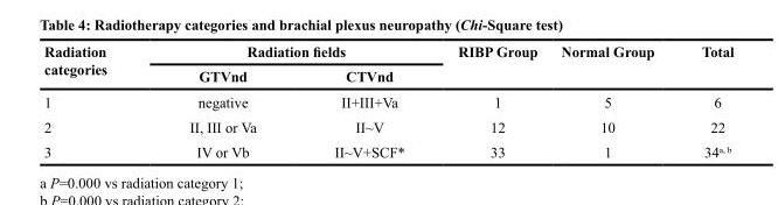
<table><thead><tr><td rowspan="2">Radiation categories</td><td colspan="2">Radiation fields</td><td rowspan="2">RIBP Group</td><td rowspan="2">Normal Group</td><td rowspan="2">Total</td></tr><tr><td>GTVnd</td><td>CTVnd</td></tr></thead><tbody><tr><td>1</td><td>negative</td><td>II+III+Va</td><td>1</td><td>5</td><td>6</td></tr><tr><td>2</td><td>II, III or Va</td><td>II~V</td><td>12</td><td>10</td><td>22</td></tr><tr><td>3</td><td>IV or Vb</td><td>II~V+SCF*</td><td>33</td><td>1</td><td>34<sup>a, b</sup></td></tr></tbody></table>